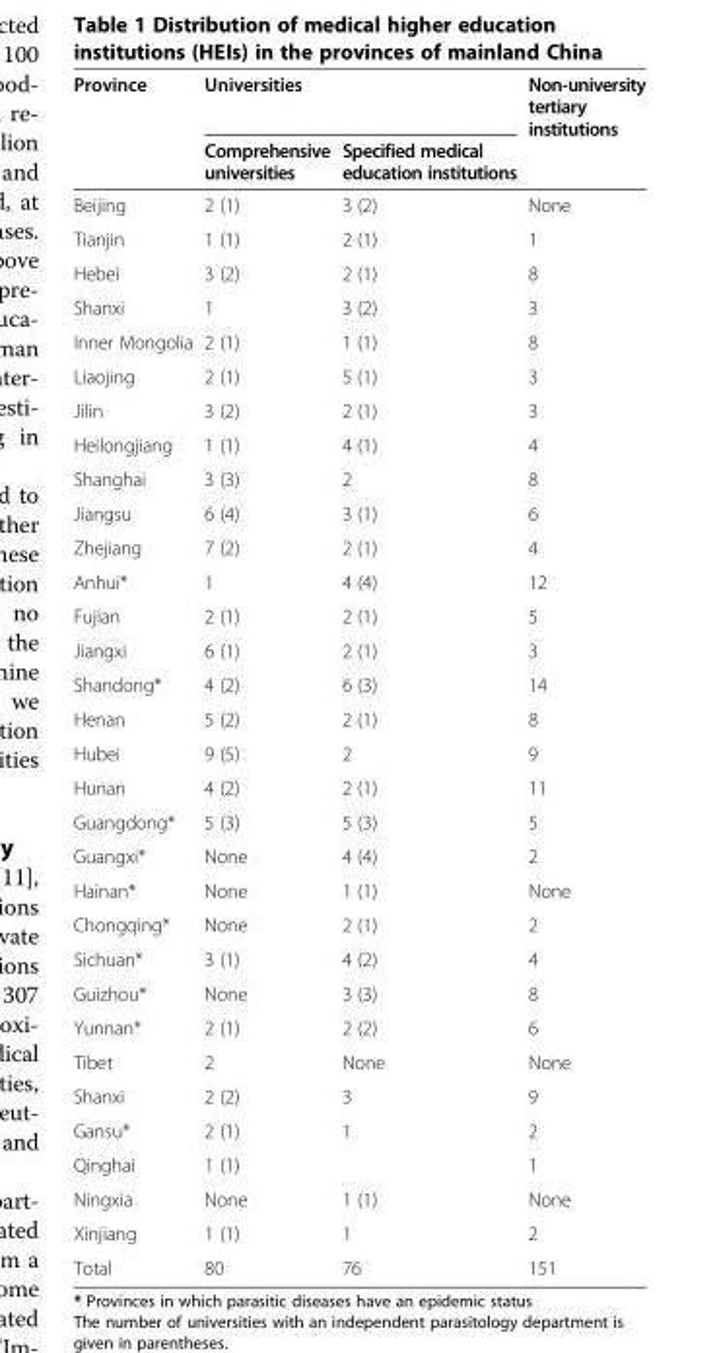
<table><thead><tr><td rowspan="2">Province</td><td colspan="2">Universities</td><td rowspan="2">Non-university tertiary institutions</td></tr><tr><td>Comprehensive universities</td><td>Specified medical education institutions</td></tr></thead><tbody><tr><td>Beijing</td><td>2 (1)</td><td>3 (2)</td><td>None</td></tr><tr><td>Tianjin</td><td>1 (1)</td><td>2 (1)</td><td>1</td></tr><tr><td>Hebei</td><td>3 (2)</td><td>2 (1)</td><td>8</td></tr><tr><td>Shanxi</td><td>1</td><td>3 (2)</td><td>3</td></tr><tr><td>Inner Mongolia</td><td>2 (1)</td><td>1 (1)</td><td>8</td></tr><tr><td>Liaojing</td><td>2 (1)</td><td>5 (1)</td><td>3</td></tr><tr><td>Jilin</td><td>3 (2)</td><td>2 (1)</td><td>3</td></tr><tr><td>Heilongjiang</td><td>1 (1)</td><td>4 (1)</td><td>4</td></tr><tr><td>Shanghai</td><td>3 (3)</td><td>2</td><td>8</td></tr><tr><td>Jiangsu</td><td>6 (4)</td><td>3 (1)</td><td>6</td></tr><tr><td>Zhejiang</td><td>7 (2)</td><td>2 (1)</td><td>4</td></tr><tr><td>Anhui*</td><td>1</td><td>4 (4)</td><td>12</td></tr><tr><td>Fujian</td><td>2 (1)</td><td>2 (1)</td><td>5</td></tr><tr><td>Jiangxi</td><td>6 (1)</td><td>2 (1)</td><td>3</td></tr><tr><td>Shandong*</td><td>4 (2)</td><td>6 (3)</td><td>14</td></tr><tr><td>Henan</td><td>5 (2)</td><td>2 (1)</td><td>8</td></tr><tr><td>Hubei</td><td>9 (5)</td><td>2</td><td>9</td></tr><tr><td>Hunan</td><td>4 (2)</td><td>2 (1)</td><td>11</td></tr><tr><td>Guangdong*</td><td>5 (3)</td><td>5 (3)</td><td>5</td></tr><tr><td>Guangxi*</td><td>None</td><td>4 (4)</td><td>2</td></tr><tr><td>Hainan*</td><td>None</td><td>1 (1)</td><td>None</td></tr><tr><td>Chongqing*</td><td>None</td><td>2 (1)</td><td>2</td></tr><tr><td>Sichuan*</td><td>3 (1)</td><td>4 (2)</td><td>4</td></tr><tr><td>Guizhou*</td><td>None</td><td>3 (3)</td><td>8</td></tr><tr><td>Yunnan*</td><td>2 (1)</td><td>2 (2)</td><td>6</td></tr><tr><td>Tibet</td><td>2</td><td>None</td><td>None</td></tr><tr><td>Shanxi</td><td>2 (2)</td><td>3</td><td>9</td></tr><tr><td>Gansu*</td><td>2 (1)</td><td>1</td><td>2</td></tr><tr><td>Qinghai</td><td>1 (1)</td><td></td><td>1</td></tr><tr><td>Ningxia</td><td>None</td><td>1 (1)</td><td>None</td></tr><tr><td>Xinjiang</td><td>1 (1)</td><td>1</td><td>2</td></tr><tr><td>Total</td><td>80</td><td>76</td><td>151</td></tr></tbody></table>